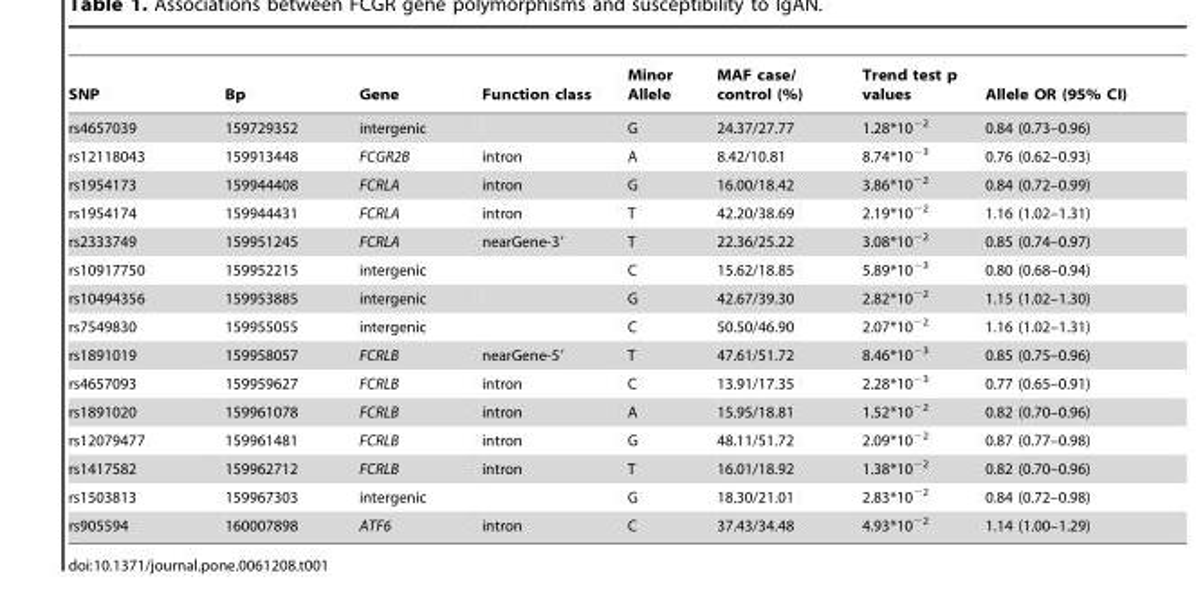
<table><thead><tr><td>SNP</td><td>Bp</td><td>Gene</td><td>Function class</td><td>Minor Allele</td><td>MAF case/ control (%)</td><td>Trend test p values</td><td>Allele OR (95% CI)</td></tr></thead><tbody><tr><td>rs4657039</td><td>159729352</td><td>intergenic</td><td></td><td>G</td><td>24.37/27.77</td><td>1.28*10<sup>−2</sup></td><td>0.84 (0.73–0.96)</td></tr><tr><td>rs12118043</td><td>159913448</td><td>FCGR2B</td><td>intron</td><td>A</td><td>8.42/10.81</td><td>8.74*10<sup>−3</sup></td><td>0.76 (0.62–0.93)</td></tr><tr><td>rs1954173</td><td>159944408</td><td>FCRLA</td><td>intron</td><td>G</td><td>16.00/18.42</td><td>3.86*10<sup>−2</sup></td><td>0.84 (0.72–0.99)</td></tr><tr><td>rs1954174</td><td>159944431</td><td>FCRLA</td><td>intron</td><td>T</td><td>42.20/38.69</td><td>2.19*10<sup>−2</sup></td><td>1.16 (1.02–1.31)</td></tr><tr><td>rs2333749</td><td>159951245</td><td>FCRLA</td><td>nearGene-3′</td><td>T</td><td>22.36/25.22</td><td>3.08*10<sup>−2</sup></td><td>0.85 (0.74–0.97)</td></tr><tr><td>rs10917750</td><td>159952215</td><td>intergenic</td><td></td><td>C</td><td>15.62/18.85</td><td>5.89*10<sup>−3</sup></td><td>0.80 (0.68–0.94)</td></tr><tr><td>rs10494356</td><td>159953885</td><td>intergenic</td><td></td><td>G</td><td>42.67/39.30</td><td>2.82*10<sup>−2</sup></td><td>1.15 (1.02–1.30)</td></tr><tr><td>rs7549830</td><td>159955055</td><td>intergenic</td><td></td><td>C</td><td>50.50/46.90</td><td>2.07*10<sup>−2</sup></td><td>1.16 (1.02–1.31)</td></tr><tr><td>rs1891019</td><td>159958057</td><td>FCRLB</td><td>nearGene-5′</td><td>T</td><td>47.61/51.72</td><td>8.46*10<sup>−3</sup></td><td>0.85 (0.75–0.96)</td></tr><tr><td>rs4657093</td><td>159959627</td><td>FCRLB</td><td>intron</td><td>C</td><td>13.91/17.35</td><td>2.28*10<sup>−3</sup></td><td>0.77 (0.65–0.91)</td></tr><tr><td>rs1891020</td><td>159961078</td><td>FCRLB</td><td>intron</td><td>A</td><td>15.95/18.81</td><td>1.52*10<sup>−2</sup></td><td>0.82 (0.70–0.96)</td></tr><tr><td>rs12079477</td><td>159961481</td><td>FCRLB</td><td>intron</td><td>G</td><td>48.11/51.72</td><td>2.09*10<sup>−2</sup></td><td>0.87 (0.77–0.98)</td></tr><tr><td>rs1417582</td><td>159962712</td><td>FCRLB</td><td>intron</td><td>T</td><td>16.01/18.92</td><td>1.38*10<sup>−2</sup></td><td>0.82 (0.70–0.96)</td></tr><tr><td>rs1503813</td><td>159967303</td><td>intergenic</td><td></td><td>G</td><td>18.30/21.01</td><td>2.83*10<sup>−2</sup></td><td>0.84 (0.72–0.98)</td></tr><tr><td>rs905594</td><td>160007898</td><td>ATF6</td><td>intron</td><td>C</td><td>37.43/34.48</td><td>4.93*10<sup>−2</sup></td><td>1.14 (1.00–1.29)</td></tr></tbody></table>